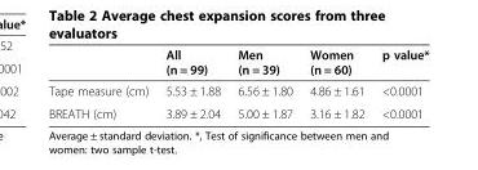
<table><thead><tr><td></td><td>All (n = 99)</td><td>Men (n = 39)</td><td>Women (n = 60)</td><td>p value*</td></tr></thead><tbody><tr><td>Tape measure (cm)</td><td>5.53 ± 1.88</td><td>6.56 ± 1.80</td><td>4.86 ± 1.61</td><td>&lt;0.0001</td></tr><tr><td>BREATH (cm)</td><td>3.89 ± 2.04</td><td>5.00 ± 1.87</td><td>3.16 ± 1.82</td><td>&lt;0.0001</td></tr></tbody></table>